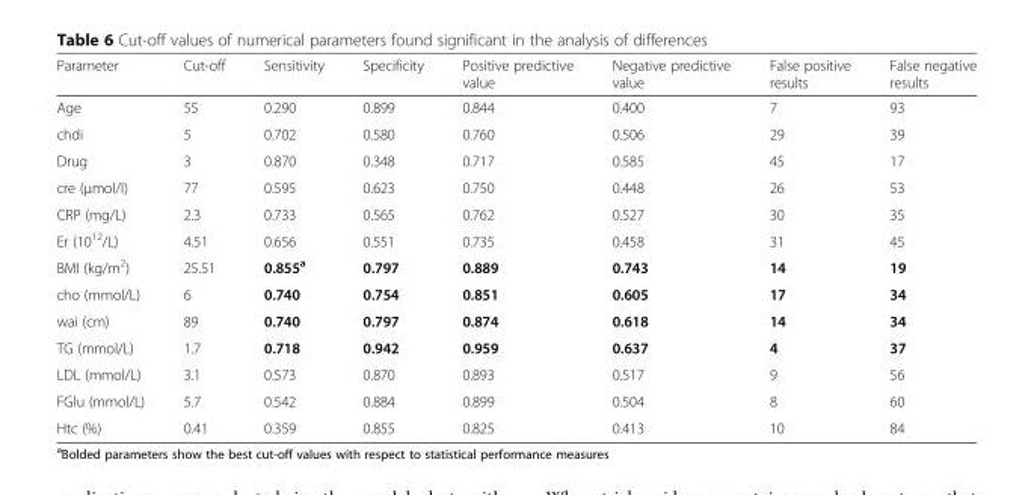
<table><thead><tr><td>Parameter</td><td>Cut-off</td><td>Sensitivity</td><td>Specificity</td><td>Positive predictive value</td><td>Negative predictive value</td><td>False positive results</td><td>False negative results</td></tr></thead><tbody><tr><td>Age</td><td>55</td><td>0.290</td><td>0.899</td><td>0.844</td><td>0.400</td><td>7</td><td>93</td></tr><tr><td>chdi</td><td>5</td><td>0.702</td><td>0.580</td><td>0.760</td><td>0.506</td><td>29</td><td>39</td></tr><tr><td>Drug</td><td>3</td><td>0.870</td><td>0.348</td><td>0.717</td><td>0.585</td><td>45</td><td>17</td></tr><tr><td>cre (μmol/l)</td><td>77</td><td>0.595</td><td>0.623</td><td>0.750</td><td>0.448</td><td>26</td><td>53</td></tr><tr><td>CRP (mg/L)</td><td>2.3</td><td>0.733</td><td>0.565</td><td>0.762</td><td>0.527</td><td>30</td><td>35</td></tr><tr><td>Er (10<sup>12</sup>/L)</td><td>4.51</td><td>0.656</td><td>0.551</td><td>0.735</td><td>0.458</td><td>31</td><td>45</td></tr><tr><td>BMI (kg/m<sup>2</sup>)</td><td>25.51</td><td>0.855<sup>a</sup></td><td>0.797</td><td>0.889</td><td>0.743</td><td>14</td><td>19</td></tr><tr><td>cho (mmol/L)</td><td>6</td><td>0.740</td><td>0.754</td><td>0.851</td><td>0.605</td><td>17</td><td>34</td></tr><tr><td>wai (cm)</td><td>89</td><td>0.740</td><td>0.797</td><td>0.874</td><td>0.618</td><td>14</td><td>34</td></tr><tr><td>TG (mmol/L)</td><td>1.7</td><td>0.718</td><td>0.942</td><td>0.959</td><td>0.637</td><td>4</td><td>37</td></tr><tr><td>LDL (mmol/L)</td><td>3.1</td><td>0.573</td><td>0.870</td><td>0.893</td><td>0.517</td><td>9</td><td>56</td></tr><tr><td>FGlu (mmol/L)</td><td>5.7</td><td>0.542</td><td>0.884</td><td>0.899</td><td>0.504</td><td>8</td><td>60</td></tr><tr><td>Htc (%)</td><td>0.41</td><td>0.359</td><td>0.855</td><td>0.825</td><td>0.413</td><td>10</td><td>84</td></tr></tbody></table>